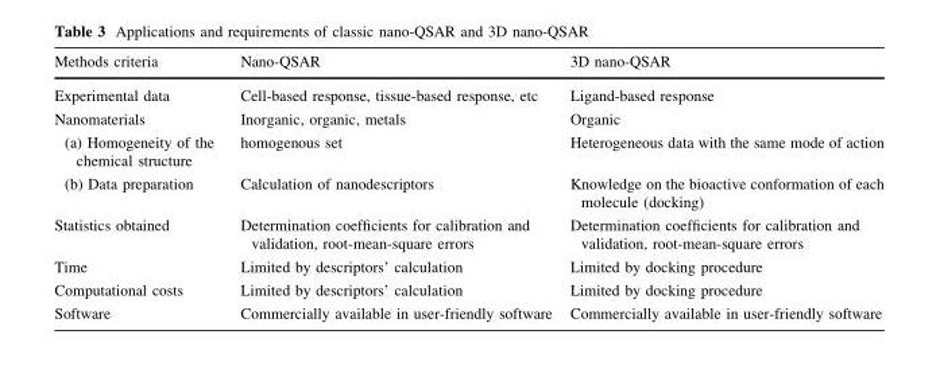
<table><thead><tr><td>Methods criteria</td><td>Nano-QSAR</td><td>3D nano-QSAR</td></tr></thead><tbody><tr><td>Experimental data</td><td>Cell-based response, tissue-based response, etc</td><td>Ligand-based response</td></tr><tr><td>Nanomaterials</td><td>Inorganic, organic, metals</td><td>Organic</td></tr><tr><td>(a) Homogeneity of the chemical structure</td><td>homogenous set</td><td>Heterogeneous data with the same mode of action</td></tr><tr><td>(b) Data preparation</td><td>Calculation of nanodescriptors</td><td>Knowledge on the bioactive conformation of each molecule (docking)</td></tr><tr><td>Statistics obtained</td><td>Determination coefficients for calibration and validation, root-mean-square errors</td><td>Determination coefficients for calibration and validation, root-mean-square errors</td></tr><tr><td>Time</td><td>Limited by descriptors’ calculation</td><td>Limited by docking procedure</td></tr><tr><td>Computational costs</td><td>Limited by descriptors’ calculation</td><td>Limited by docking procedure</td></tr><tr><td>Software</td><td>Commercially available in user-friendly software</td><td>Commercially available in user-friendly software</td></tr></tbody></table>